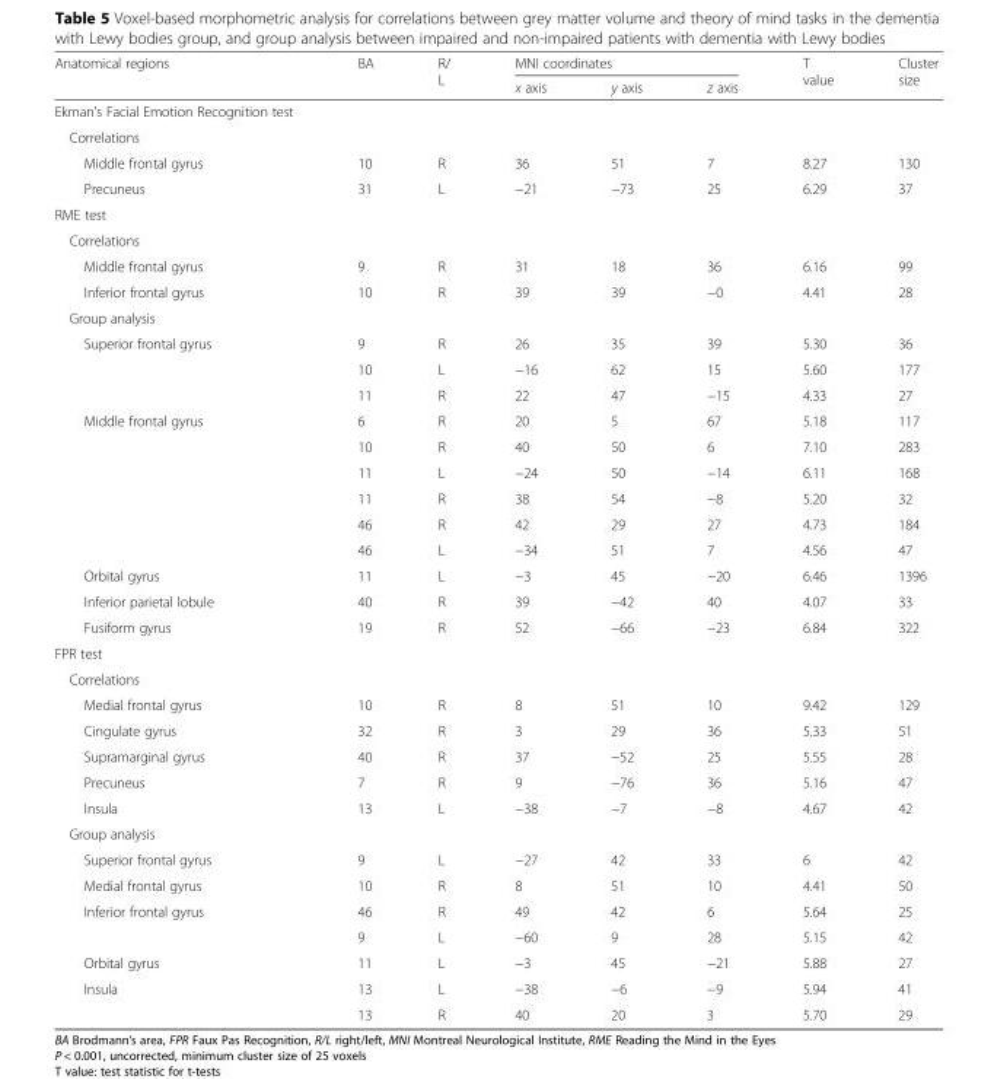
<table><thead><tr><td rowspan="2">Anatomical regions</td><td rowspan="2">BA</td><td rowspan="2">R/ L</td><td colspan="3">MNI coordinates</td><td rowspan="2">T value</td><td rowspan="2">Cluster size</td></tr><tr><td>x axis</td><td>y axis</td><td>z axis</td></tr></thead><tbody><tr><td colspan="8">Ekman’s Facial Emotion Recognition test</td></tr><tr><td colspan="8">Correlations</td></tr><tr><td>Middle frontal gyrus</td><td>10</td><td>R</td><td>36</td><td>51</td><td>7</td><td>8.27</td><td>130</td></tr><tr><td>Precuneus</td><td>31</td><td>L</td><td>−21</td><td>−73</td><td>25</td><td>6.29</td><td>37</td></tr><tr><td colspan="8">RME test</td></tr><tr><td colspan="8">Correlations</td></tr><tr><td>Middle frontal gyrus</td><td>9</td><td>R</td><td>31</td><td>18</td><td>36</td><td>6.16</td><td>99</td></tr><tr><td>Inferior frontal gyrus</td><td>10</td><td>R</td><td>39</td><td>39</td><td>−0</td><td>4.41</td><td>28</td></tr><tr><td colspan="8">Group analysis</td></tr><tr><td rowspan="3">Superior frontal gyrus</td><td>9</td><td>R</td><td>26</td><td>35</td><td>39</td><td>5.30</td><td>36</td></tr><tr><td>10</td><td>L</td><td>−16</td><td>62</td><td>15</td><td>5.60</td><td>177</td></tr><tr><td>11</td><td>R</td><td>22</td><td>47</td><td>−15</td><td>4.33</td><td>27</td></tr><tr><td rowspan="6">Middle frontal gyrus</td><td>6</td><td>R</td><td>20</td><td>5</td><td>67</td><td>5.18</td><td>117</td></tr><tr><td>10</td><td>R</td><td>40</td><td>50</td><td>6</td><td>7.10</td><td>283</td></tr><tr><td>11</td><td>L</td><td>−24</td><td>50</td><td>−14</td><td>6.11</td><td>168</td></tr><tr><td>11</td><td>R</td><td>38</td><td>54</td><td>−8</td><td>5.20</td><td>32</td></tr><tr><td>46</td><td>R</td><td>42</td><td>29</td><td>27</td><td>4.73</td><td>184</td></tr><tr><td>46</td><td>L</td><td>−34</td><td>51</td><td>7</td><td>4.56</td><td>47</td></tr><tr><td>Orbital gyrus</td><td>11</td><td>L</td><td>−3</td><td>45</td><td>−20</td><td>6.46</td><td>1396</td></tr><tr><td>Inferior parietal lobule</td><td>40</td><td>R</td><td>39</td><td>−42</td><td>40</td><td>4.07</td><td>33</td></tr><tr><td>Fusiform gyrus</td><td>19</td><td>R</td><td>52</td><td>−66</td><td>−23</td><td>6.84</td><td>322</td></tr><tr><td colspan="8">FPR test</td></tr><tr><td colspan="8">Correlations</td></tr><tr><td>Medial frontal gyrus</td><td>10</td><td>R</td><td>8</td><td>51</td><td>10</td><td>9.42</td><td>129</td></tr><tr><td>Cingulate gyrus</td><td>32</td><td>R</td><td>3</td><td>29</td><td>36</td><td>5.33</td><td>51</td></tr><tr><td>Supramarginal gyrus</td><td>40</td><td>R</td><td>37</td><td>−52</td><td>25</td><td>5.55</td><td>28</td></tr><tr><td>Precuneus</td><td>7</td><td>R</td><td>9</td><td>−76</td><td>36</td><td>5.16</td><td>47</td></tr><tr><td>Insula</td><td>13</td><td>L</td><td>−38</td><td>−7</td><td>−8</td><td>4.67</td><td>42</td></tr><tr><td colspan="8">Group analysis</td></tr><tr><td>Superior frontal gyrus</td><td>9</td><td>L</td><td>−27</td><td>42</td><td>33</td><td>6</td><td>42</td></tr><tr><td>Medial frontal gyrus</td><td>10</td><td>R</td><td>8</td><td>51</td><td>10</td><td>4.41</td><td>50</td></tr><tr><td rowspan="2">Inferior frontal gyrus</td><td>46</td><td>R</td><td>49</td><td>42</td><td>6</td><td>5.64</td><td>25</td></tr><tr><td>9</td><td>L</td><td>−60</td><td>9</td><td>28</td><td>5.15</td><td>42</td></tr><tr><td>Orbital gyrus</td><td>11</td><td>L</td><td>−3</td><td>45</td><td>−21</td><td>5.88</td><td>27</td></tr><tr><td rowspan="2">Insula</td><td>13</td><td>L</td><td>−38</td><td>−6</td><td>−9</td><td>5.94</td><td>41</td></tr><tr><td>13</td><td>R</td><td>40</td><td>20</td><td>3</td><td>5.70</td><td>29</td></tr></tbody></table>